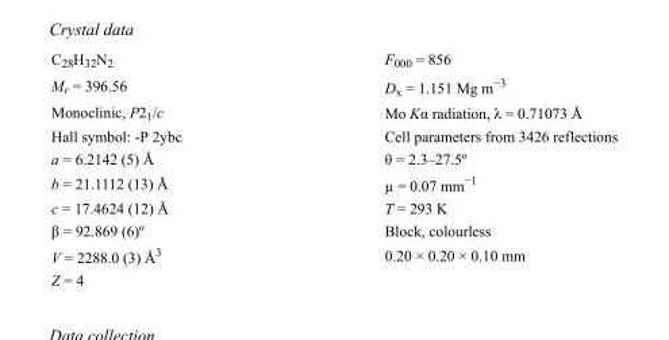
<table><tbody><tr><td>C<sub>28</sub>H<sub>32</sub>N<sub>2</sub></td><td>F000 = 856</td></tr><tr><td>M<sub>r</sub> = 396.56</td><td>D<sub>x</sub> = 1.151 Mg m<sup>−3</sup></td></tr><tr><td>Monoclinic, P2<sub>1</sub>/c</td><td>Mo Kα radiation, λ = 0.71073 Å</td></tr><tr><td>Hall symbol: -P 2ybc</td><td>Cell parameters from 3426 reflections</td></tr><tr><td>a = 6.2142 (5) Å</td><td>θ = 2.3–27.5º</td></tr><tr><td>b = 21.1112 (13) Å</td><td>µ = 0.07 mm<sup>−1</sup></td></tr><tr><td>c = 17.4624 (12) Å</td><td>T = 293 K</td></tr><tr><td>β = 92.869 (6)º</td><td>Block, colourless</td></tr><tr><td>V = 2288.0 (3) Å<sup>3</sup></td><td>0.20 × 0.20 × 0.10 mm</td></tr><tr><td>Z = 4</td><td></td></tr></tbody></table>